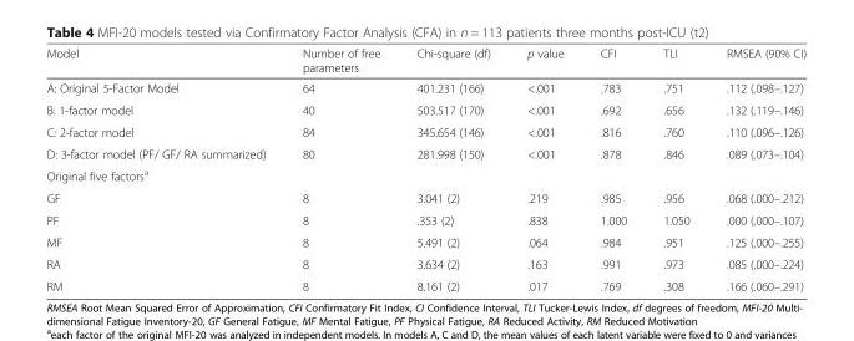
<table><thead><tr><td>Model</td><td>Number of free parameters</td><td>Chi-square (df)</td><td>p value</td><td>CFI</td><td>TLI</td><td>RMSEA (90% CI)</td></tr></thead><tbody><tr><td>A: Original 5-Factor Model</td><td>64</td><td>401.231 (166)</td><td>&lt;.001</td><td>.783</td><td>.751</td><td>.112 (.098–.127)</td></tr><tr><td>B: 1-factor model</td><td>40</td><td>503.517 (170)</td><td>&lt;.001</td><td>.692</td><td>.656</td><td>.132 (.119–.146)</td></tr><tr><td>C: 2-factor model</td><td>84</td><td>345.654 (146)</td><td>&lt;.001</td><td>.816</td><td>.760</td><td>.110 (.096–.126)</td></tr><tr><td>D: 3-factor model (PF/ GF/ RA summarized)</td><td>80</td><td>281.998 (150)</td><td>&lt;.001</td><td>.878</td><td>.846</td><td>.089 (.073–.104)</td></tr><tr><td colspan="7">Original five factors<sup>a</sup></td></tr><tr><td>GF</td><td>8</td><td>3.041 (2)</td><td>.219</td><td>.985</td><td>.956</td><td>.068 (.000–.212)</td></tr><tr><td>PF</td><td>8</td><td>.353 (2)</td><td>.838</td><td>1.000</td><td>1.050</td><td>.000 (.000–.107)</td></tr><tr><td>MF</td><td>8</td><td>5.491 (2)</td><td>.064</td><td>.984</td><td>.951</td><td>.125 (.000–.255)</td></tr><tr><td>RA</td><td>8</td><td>3.634 (2)</td><td>.163</td><td>.991</td><td>.973</td><td>.085 (.000–.224)</td></tr><tr><td>RM</td><td>8</td><td>8.161 (2)</td><td>.017</td><td>.769</td><td>.308</td><td>.166 (.060–.291)</td></tr></tbody></table>